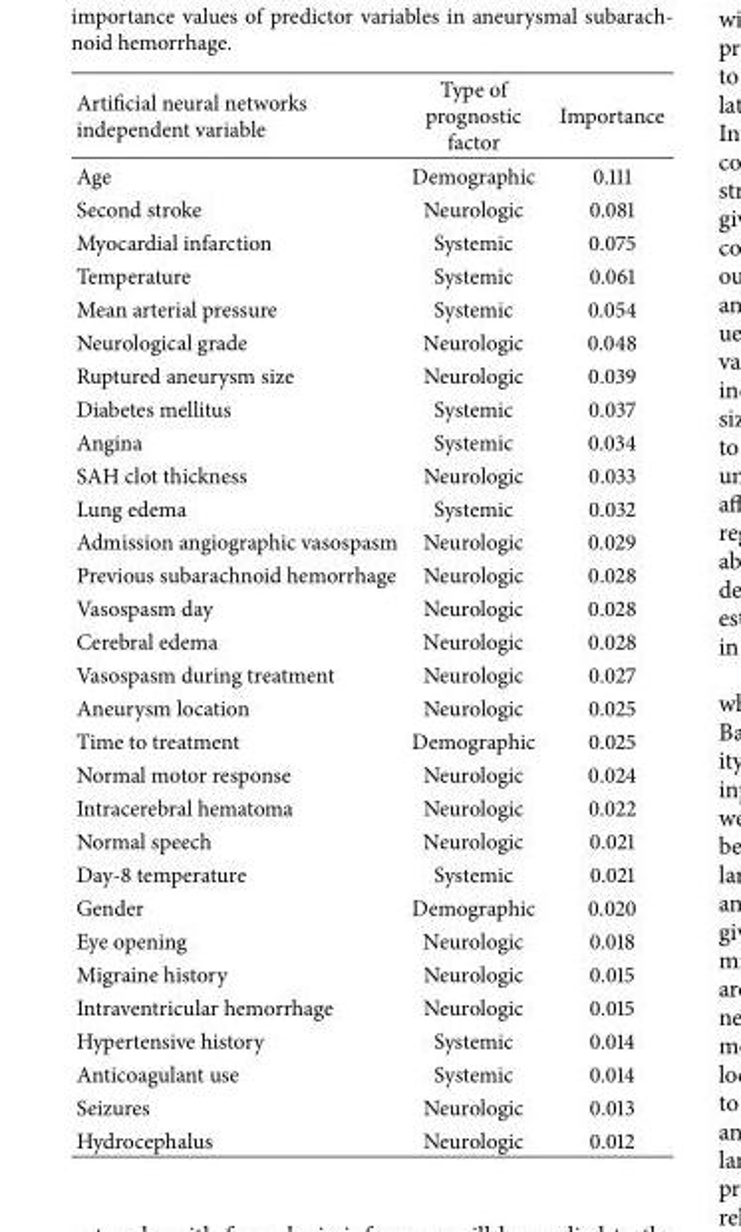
<table><thead><tr><td>Artificial neural networks independent variable</td><td>Type of prognostic factor</td><td>Importance</td></tr></thead><tbody><tr><td>Age</td><td>Demographic</td><td>0.111</td></tr><tr><td>Second stroke</td><td>Neurologic</td><td>0.081</td></tr><tr><td>Myocardial infarction</td><td>Systemic</td><td>0.075</td></tr><tr><td>Temperature</td><td>Systemic</td><td>0.061</td></tr><tr><td>Mean arterial pressure</td><td>Systemic</td><td>0.054</td></tr><tr><td>Neurological grade</td><td>Neurologic</td><td>0.048</td></tr><tr><td>Ruptured aneurysm size</td><td>Neurologic</td><td>0.039</td></tr><tr><td>Diabetes mellitus</td><td>Systemic</td><td>0.037</td></tr><tr><td>Angina</td><td>Systemic</td><td>0.034</td></tr><tr><td>SAH clot thickness</td><td>Neurologic</td><td>0.033</td></tr><tr><td>Lung edema</td><td>Systemic</td><td>0.032</td></tr><tr><td>Admission angiographic vasospasm</td><td>Neurologic</td><td>0.029</td></tr><tr><td>Previous subarachnoid hemorrhage</td><td>Neurologic</td><td>0.028</td></tr><tr><td>Vasospasm day</td><td>Neurologic</td><td>0.028</td></tr><tr><td>Cerebral edema</td><td>Neurologic</td><td>0.028</td></tr><tr><td>Vasospasm during treatment</td><td>Neurologic</td><td>0.027</td></tr><tr><td>Aneurysm location</td><td>Neurologic</td><td>0.025</td></tr><tr><td>Time to treatment</td><td>Demographic</td><td>0.025</td></tr><tr><td>Normal motor response</td><td>Neurologic</td><td>0.024</td></tr><tr><td>Intracerebral hematoma</td><td>Neurologic</td><td>0.022</td></tr><tr><td>Normal speech</td><td>Neurologic</td><td>0.021</td></tr><tr><td>Day-8 temperature</td><td>Systemic</td><td>0.021</td></tr><tr><td>Gender</td><td>Demographic</td><td>0.020</td></tr><tr><td>Eye opening</td><td>Neurologic</td><td>0.018</td></tr><tr><td>Migraine history</td><td>Neurologic</td><td>0.015</td></tr><tr><td>Intraventricular hemorrhage</td><td>Neurologic</td><td>0.015</td></tr><tr><td>Hypertensive history</td><td>Systemic</td><td>0.014</td></tr><tr><td>Anticoagulant use</td><td>Systemic</td><td>0.014</td></tr><tr><td>Seizures</td><td>Neurologic</td><td>0.013</td></tr><tr><td>Hydrocephalus</td><td>Neurologic</td><td>0.012</td></tr></tbody></table>